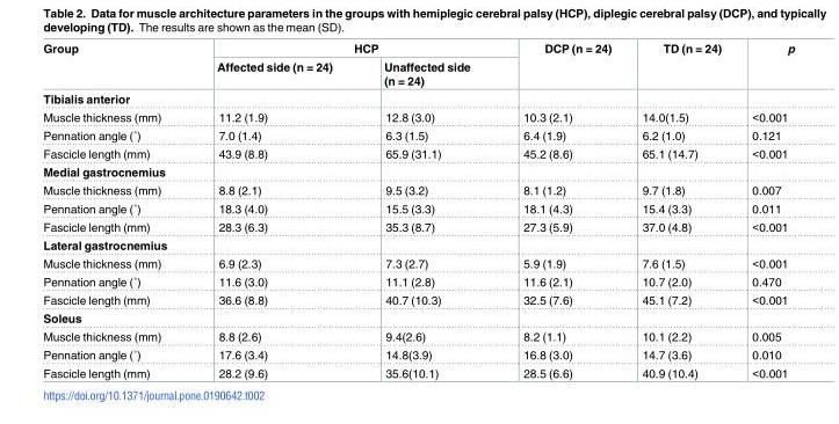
<table><thead><tr><td rowspan="2">Group</td><td colspan="2">HCP</td><td rowspan="2">DCP (n = 24)</td><td rowspan="2">TD (n = 24)</td><td rowspan="2">p</td></tr><tr><td>Affected side (n = 24)</td><td>Unaffected side (n = 24)</td></tr></thead><tbody><tr><td colspan="6">Tibialis anterior</td></tr><tr><td>Muscle thickness (mm)</td><td>11.2 (1.9)</td><td>12.8 (3.0)</td><td>10.3 (2.1)</td><td>14.0(1.5)</td><td>&lt;0.001</td></tr><tr><td>Pennation angle (˚)</td><td>7.0 (1.4)</td><td>6.3 (1.5)</td><td>6.4 (1.9)</td><td>6.2 (1.0)</td><td>0.121</td></tr><tr><td>Fascicle length (mm)</td><td>43.9 (8.8)</td><td>65.9 (31.1)</td><td>45.2 (8.6)</td><td>65.1 (14.7)</td><td>&lt;0.001</td></tr><tr><td colspan="6">Medial gastrocnemius</td></tr><tr><td>Muscle thickness (mm)</td><td>8.8 (2.1)</td><td>9.5 (3.2)</td><td>8.1 (1.2)</td><td>9.7 (1.8)</td><td>0.007</td></tr><tr><td>Pennation angle (˚)</td><td>18.3 (4.0)</td><td>15.5 (3.3)</td><td>18.1 (4.3)</td><td>15.4 (3.3)</td><td>0.011</td></tr><tr><td>Fascicle length (mm)</td><td>28.3 (6.3)</td><td>35.3 (8.7)</td><td>27.3 (5.9)</td><td>37.0 (4.8)</td><td>&lt;0.001</td></tr><tr><td colspan="6">Lateral gastrocnemius</td></tr><tr><td>Muscle thickness (mm)</td><td>6.9 (2.3)</td><td>7.3 (2.7)</td><td>5.9 (1.9)</td><td>7.6 (1.5)</td><td>&lt;0.001</td></tr><tr><td>Pennation angle (˚)</td><td>11.6 (3.0)</td><td>11.1 (2.8)</td><td>11.6 (2.1)</td><td>10.7 (2.0)</td><td>0.470</td></tr><tr><td>Fascicle length (mm)</td><td>36.6 (8.8)</td><td>40.7 (10.3)</td><td>32.5 (7.6)</td><td>45.1 (7.2)</td><td>&lt;0.001</td></tr><tr><td colspan="6">Soleus</td></tr><tr><td>Muscle thickness (mm)</td><td>8.8 (2.6)</td><td>9.4(2.6)</td><td>8.2 (1.1)</td><td>10.1 (2.2)</td><td>0.005</td></tr><tr><td>Pennation angle (˚)</td><td>17.6 (3.4)</td><td>14.8(3.9)</td><td>16.8 (3.0)</td><td>14.7 (3.6)</td><td>0.010</td></tr><tr><td>Fascicle length (mm)</td><td>28.2 (9.6)</td><td>35.6(10.1)</td><td>28.5 (6.6)</td><td>40.9 (10.4)</td><td>&lt;0.001</td></tr></tbody></table>